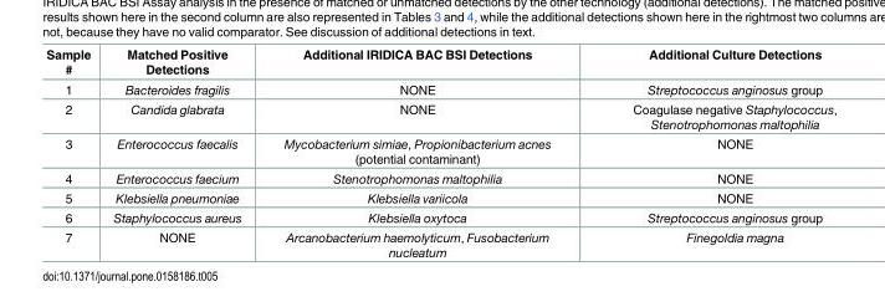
<table><thead><tr><td>Sample #</td><td>Matched Positive Detections</td><td>Additional IRIDICA BAC BSI Detections</td><td>Additional Culture Detections</td></tr></thead><tbody><tr><td>1</td><td>Bacteroides fragilis</td><td>NONE</td><td>Streptococcus anginosus group</td></tr><tr><td>2</td><td>Candida glabrata</td><td>NONE</td><td>Coagulase negative Staphylococcus, Stenotrophomonas maltophilia</td></tr><tr><td>3</td><td>Enterococcus faecalis</td><td>Mycobacterium simiae, Propionibacterium acnes (potential contaminant)</td><td>NONE</td></tr><tr><td>4</td><td>Enterococcus faecium</td><td>Stenotrophomonas maltophilia</td><td>NONE</td></tr><tr><td>5</td><td>Klebsiella pneumoniae</td><td>Klebsiella variicola</td><td>NONE</td></tr><tr><td>6</td><td>Staphylococcus aureus</td><td>Klebsiella oxytoca</td><td>Streptococcus anginosus group</td></tr><tr><td>7</td><td>NONE</td><td>Arcanobacterium haemolyticum, Fusobacterium nucleatum</td><td>Finegoldia magna</td></tr></tbody></table>